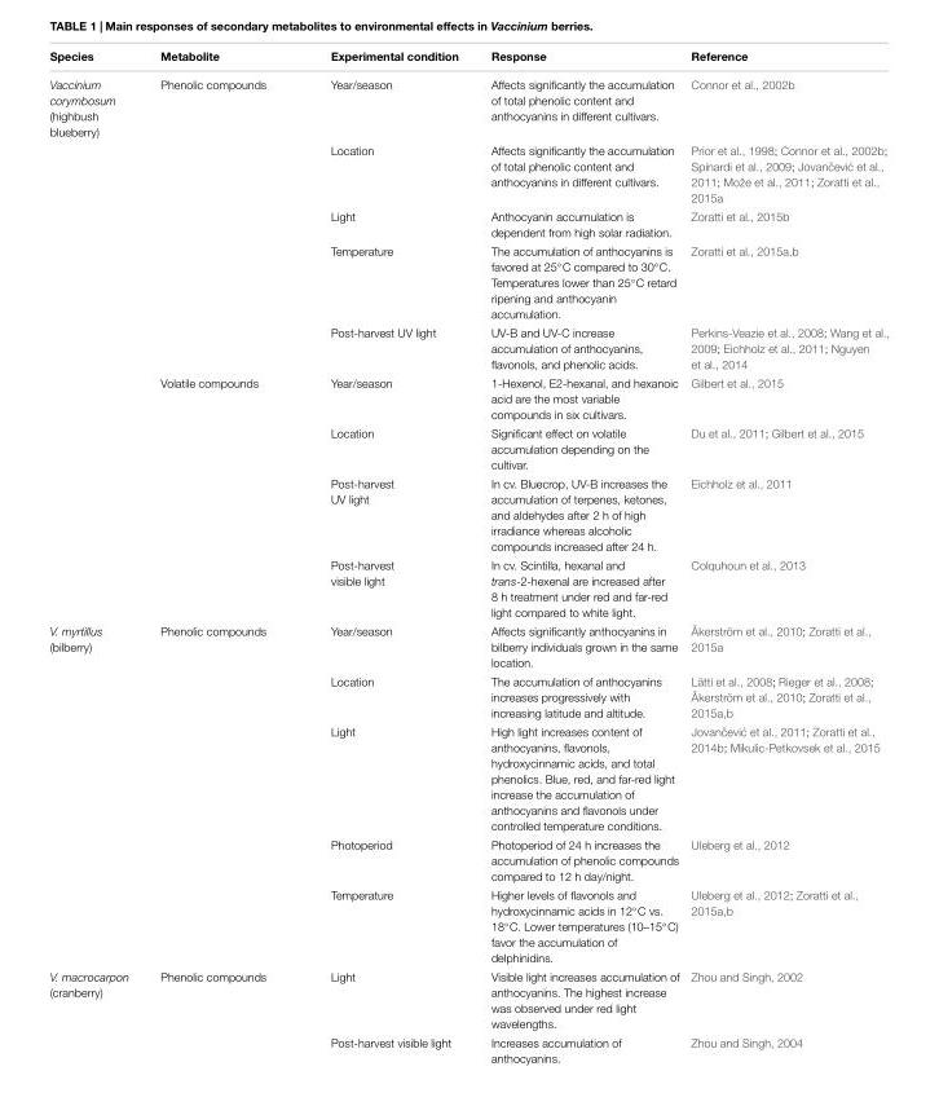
<table><thead><tr><td>Species</td><td>Metabolite</td><td>Experimental condition</td><td>Response</td><td>Reference</td></tr></thead><tbody><tr><td rowspan="9">Vaccinium corymbosum (highbush blueberry)</td><td>Phenolic compounds</td><td>Year/season</td><td>Affects significantly the accumulation of total phenolic content and anthocyanins in different cultivars.</td><td>Connor et al., 2002b</td></tr><tr><td></td><td>Location</td><td>Affects significantly the accumulation of total phenolic content and anthocyanins in different cultivars.</td><td>Prior et al., 1998; Connor et al., 2002b; Spinardi et al., 2009; Jovan ˇcevi ´c et al., 2011; Može et al., 2011; Zoratti et al., 2015a</td></tr><tr><td></td><td>Light</td><td>Anthocyanin accumulation is dependent from high solar radiation.</td><td>Zoratti et al., 2015b</td></tr><tr><td></td><td>Temperature</td><td>The accumulation of anthocyanins is favored at 25◦C compared to 30◦C. Temperatures lower than 25◦C retard ripening and anthocyanin accumulation.</td><td>Zoratti et al., 2015a,b</td></tr><tr><td></td><td>Post-harvest UV light</td><td>UV-B and UV-C increase accumulation of anthocyanins, flavonols, and phenolic acids.</td><td>Perkins-Veazie et al., 2008; Wang et al., 2009; Eichholz et al., 2011; Nguyen et al., 2014</td></tr><tr><td>Volatile compounds</td><td>Year/season</td><td>1-Hexenol, E2-hexanal, and hexanoic acid are the most variable compounds in six cultivars.</td><td>Gilbert et al., 2015</td></tr><tr><td></td><td>Location</td><td>Significant effect on volatile accumulation depending on the cultivar.</td><td>Du et al., 2011; Gilbert et al., 2015</td></tr><tr><td></td><td>Post-harvest UV light</td><td>In cv. Bluecrop, UV-B increases the accumulation of terpenes, ketones, and aldehydes after 2 h of high irradiance whereas alcoholic compounds increased after 24 h.</td><td>Eichholz et al., 2011</td></tr><tr><td></td><td>Post-harvest visible light</td><td>In cv. Scintilla, hexanal and trans-2-hexenal are increased after 8 h treatment under red and far-red light compared to white light.</td><td>Colquhoun et al., 2013</td></tr><tr><td rowspan="5">V. myrtillus (bilberry)</td><td>Phenolic compounds</td><td>Year/season</td><td>Affects significantly anthocyanins in bilberry individuals grown in the same location.</td><td>Åkerström et al., 2010; Zoratti et al., 2015a</td></tr><tr><td></td><td>Location</td><td>The accumulation of anthocyanins increases progressively with increasing latitude and altitude.</td><td>Lätti et al., 2008; Rieger et al., 2008; Åkerström et al., 2010; Zoratti et al., 2015a,b</td></tr><tr><td></td><td>Light</td><td>High light increases content of anthocyanins, flavonols, hydroxycinnamic acids, and total phenolics. Blue, red, and far-red light increase the accumulation of anthocyanins and flavonols under controlled temperature conditions.</td><td>Jovan ˇcevi ´c et al., 2011; Zoratti et al., 2014b; Mikulic-Petkovsek et al., 2015</td></tr><tr><td></td><td>Photoperiod</td><td>Photoperiod of 24 h increases the accumulation of phenolic compounds compared to 12 h day/night.</td><td>Uleberg et al., 2012</td></tr><tr><td></td><td>Temperature</td><td>Higher levels of flavonols and hydroxycinnamic acids in 12◦C vs. 18◦C. Lower temperatures (10–15◦C) favor the accumulation of delphinidins.</td><td>Uleberg et al., 2012; Zoratti et al., 2015a,b</td></tr><tr><td rowspan="2">V. macrocarpon (cranberry)</td><td>Phenolic compounds</td><td>Light</td><td>Visible light increases accumulation of anthocyanins. The highest increase was observed under red light wavelengths.</td><td>Zhou and Singh, 2002</td></tr><tr><td></td><td>Post-harvest visible light</td><td>Increases accumulation of anthocyanins.</td><td>Zhou and Singh, 2004</td></tr></tbody></table>